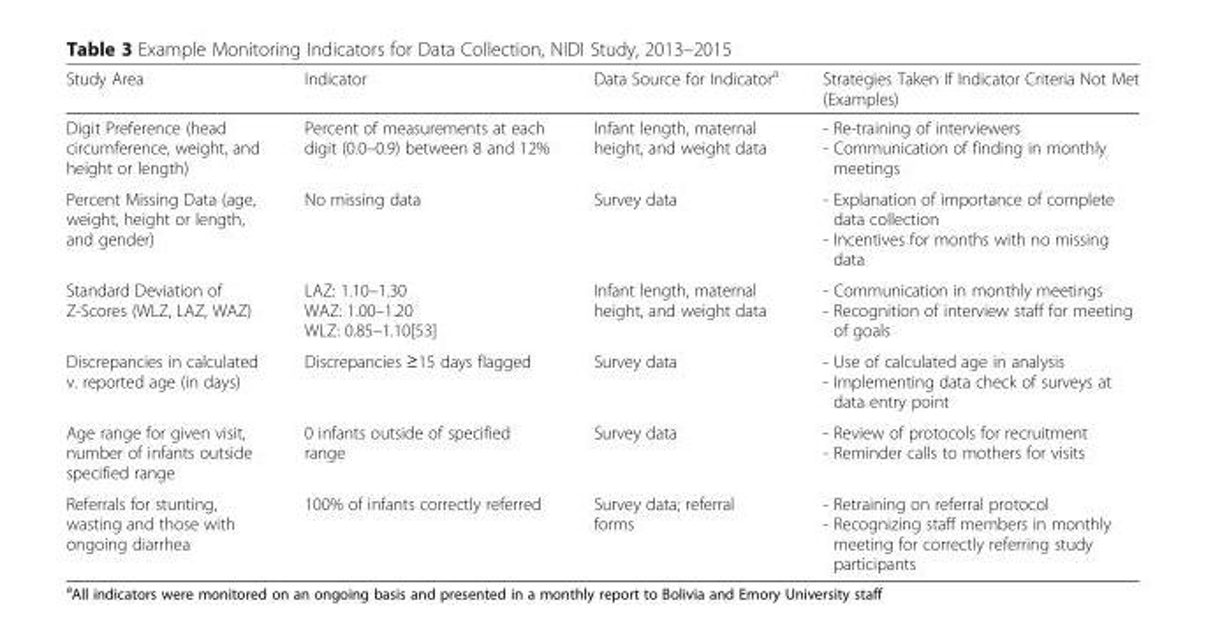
<table><thead><tr><td>Study Area</td><td>Indicator</td><td>Data Source for Indicator<sup>a</sup></td><td>Strategies Taken If Indicator Criteria Not Met (Examples)</td></tr></thead><tbody><tr><td>Digit Preference (head circumference, weight, and height or length)</td><td>Percent of measurements at each digit (0.0–0.9) between 8 and 12%</td><td>Infant length, maternal height, and weight data</td><td>- Re-training of interviewers - Communication of finding in monthly meetings</td></tr><tr><td>Percent Missing Data (age, weight, height or length, and gender)</td><td>No missing data</td><td>Survey data</td><td>- Explanation of importance of complete data collection - Incentives for months with no missing data</td></tr><tr><td>Standard Deviation of Z-Scores (WLZ, LAZ, WAZ)</td><td>LAZ: 1.10–1.30 WAZ: 1.00–1.20 WLZ: 0.85–1.10[53]</td><td>Infant length, maternal height, and weight data</td><td>- Communication in monthly meetings - Recognition of interview staff for meeting of goals</td></tr><tr><td>Discrepancies in calculated v. reported age (in days)</td><td>Discrepancies ≥15 days flagged</td><td>Survey data</td><td>- Use of calculated age in analysis - Implementing data check of surveys at data entry point</td></tr><tr><td>Age range for given visit, number of infants outside specified range</td><td>0 infants outside of specified range</td><td>Survey data</td><td>- Review of protocols for recruitment - Reminder calls to mothers for visits</td></tr><tr><td>Referrals for stunting, wasting and those with ongoing diarrhea</td><td>100% of infants correctly referred</td><td>Survey data; referral forms</td><td>- Retraining on referral protocol - Recognizing staff members in monthly meeting for correctly referring study participants</td></tr></tbody></table>